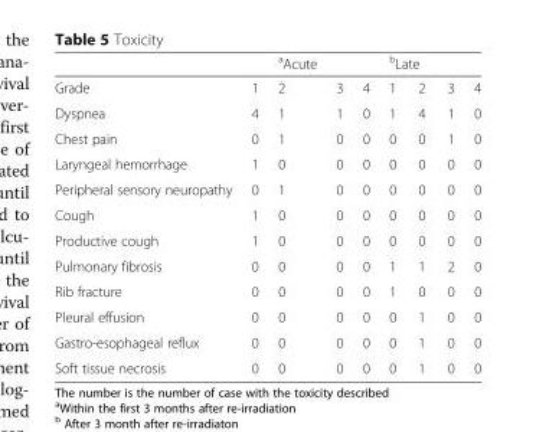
<table><thead><tr><td rowspan="2">Grade</td><td rowspan="2">1</td><td rowspan="2"><sup>a</sup>Acute 2</td><td rowspan="2">3</td><td rowspan="2">4</td><td colspan="2"><sup>b</sup>Late</td><td rowspan="2">3</td><td rowspan="2">4</td></tr><tr><td>1</td><td>2</td></tr></thead><tbody><tr><td>Dyspnea</td><td>4</td><td>1</td><td>1</td><td>0</td><td>1</td><td>4</td><td>1</td><td>0</td></tr><tr><td>Chest pain</td><td>0</td><td>1</td><td>0</td><td>0</td><td>0</td><td>0</td><td>1</td><td>0</td></tr><tr><td>Laryngeal hemorrhage</td><td>1</td><td>0</td><td>0</td><td>0</td><td>0</td><td>0</td><td>0</td><td>0</td></tr><tr><td>Peripheral sensory neuropathy</td><td>0</td><td>1</td><td>0</td><td>0</td><td>0</td><td>0</td><td>0</td><td>0</td></tr><tr><td>Cough</td><td>1</td><td>0</td><td>0</td><td>0</td><td>0</td><td>0</td><td>0</td><td>0</td></tr><tr><td>Productive cough</td><td>1</td><td>0</td><td>0</td><td>0</td><td>0</td><td>0</td><td>0</td><td>0</td></tr><tr><td>Pulmonary fibrosis</td><td>0</td><td>0</td><td>0</td><td>0</td><td>1</td><td>1</td><td>2</td><td>0</td></tr><tr><td>Rib fracture</td><td>0</td><td>0</td><td>0</td><td>0</td><td>1</td><td>0</td><td>0</td><td>0</td></tr><tr><td>Pleural effusion</td><td>0</td><td>0</td><td>0</td><td>0</td><td>0</td><td>1</td><td>0</td><td>0</td></tr><tr><td>Gastro-esophageal reflux</td><td>0</td><td>0</td><td>0</td><td>0</td><td>0</td><td>1</td><td>0</td><td>0</td></tr><tr><td>Soft tissue necrosis</td><td>0</td><td>0</td><td>0</td><td>0</td><td>0</td><td>1</td><td>0</td><td>0</td></tr></tbody></table>